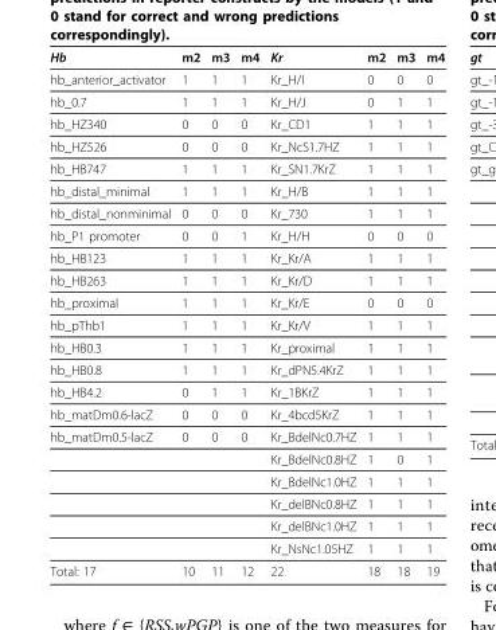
<table><thead><tr><td>Hb</td><td>m2</td><td>m3</td><td>m4</td><td>Kr</td><td>m2</td><td>m3</td><td>m4</td></tr></thead><tbody><tr><td>hb_anterior_activator</td><td>1</td><td>1</td><td>1</td><td>Kr_H/I</td><td>0</td><td>0</td><td>0</td></tr><tr><td>hb_0.7</td><td>1</td><td>1</td><td>1</td><td>Kr_H/J</td><td>0</td><td>1</td><td>1</td></tr><tr><td>hb_HZ340</td><td>0</td><td>0</td><td>0</td><td>Kr_CD1</td><td>1</td><td>1</td><td>1</td></tr><tr><td>hb_HZ526</td><td>0</td><td>0</td><td>0</td><td>Kr_NcS1.7HZ</td><td>1</td><td>1</td><td>1</td></tr><tr><td>hb_HB747</td><td>1</td><td>1</td><td>1</td><td>Kr_SN1.7KrZ</td><td>1</td><td>1</td><td>1</td></tr><tr><td>hb_distal_minimal</td><td>1</td><td>1</td><td>1</td><td>Kr_H/B</td><td>1</td><td>1</td><td>1</td></tr><tr><td>hb_distal_nonminimal</td><td>0</td><td>0</td><td>0</td><td>Kr_730</td><td>1</td><td>1</td><td>1</td></tr><tr><td>hb_P1 promoter</td><td>0</td><td>0</td><td>1</td><td>Kr_H/H</td><td>0</td><td>0</td><td>0</td></tr><tr><td>hb_HB123</td><td>1</td><td>1</td><td>1</td><td>Kr_Kr/A</td><td>1</td><td>1</td><td>1</td></tr><tr><td>hb_HB263</td><td>1</td><td>1</td><td>1</td><td>Kr_Kr/D</td><td>1</td><td>1</td><td>1</td></tr><tr><td>hb_proximal</td><td>1</td><td>1</td><td>1</td><td>Kr_Kr/E</td><td>0</td><td>0</td><td>0</td></tr><tr><td>hb_pThb1</td><td>1</td><td>1</td><td>1</td><td>Kr_Kr/V</td><td>1</td><td>1</td><td>1</td></tr><tr><td>hb_HB0.3</td><td>1</td><td>1</td><td>1</td><td>Kr_proximal</td><td>1</td><td>1</td><td>1</td></tr><tr><td>hb_HB0.8</td><td>1</td><td>1</td><td>1</td><td>Kr_dPN5.4KrZ</td><td>1</td><td>1</td><td>1</td></tr><tr><td>hb_HB4.2</td><td>0</td><td>1</td><td>1</td><td>Kr_1BKrZ</td><td>1</td><td>1</td><td>1</td></tr><tr><td>hb_matDm0.6-lacZ</td><td>0</td><td>0</td><td>0</td><td>Kr_4bcd5KrZ</td><td>1</td><td>1</td><td>1</td></tr><tr><td rowspan="6">hb_matDm0.5-lacZ</td><td>0</td><td>0</td><td>0</td><td>Kr_BdelNc0.7HZ</td><td>1</td><td>1</td><td>1</td></tr><tr><td></td><td></td><td></td><td>Kr_BdelNc0.8HZ</td><td>1</td><td>0</td><td>1</td></tr><tr><td></td><td></td><td></td><td>Kr_BdelNc1.0HZ</td><td>1</td><td>1</td><td>1</td></tr><tr><td></td><td></td><td></td><td>Kr_delBNc0.8HZ</td><td>1</td><td>1</td><td>1</td></tr><tr><td></td><td></td><td></td><td>Kr_delBNc1.0HZ</td><td>1</td><td>1</td><td>1</td></tr><tr><td></td><td></td><td></td><td>Kr_NsNc1.05HZ</td><td>1</td><td>1</td><td>1</td></tr><tr><td>Total: 17</td><td>10</td><td>11</td><td>12</td><td>22</td><td>18</td><td>18</td><td>19</td></tr></tbody></table>